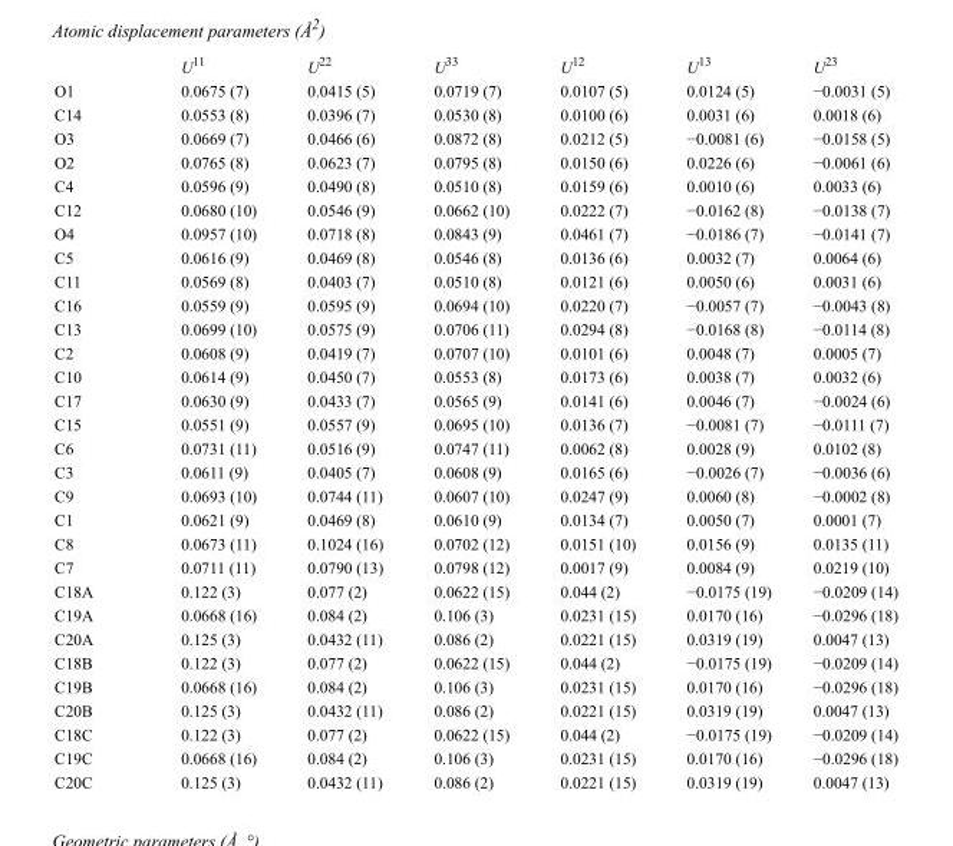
<table><thead><tr><td></td><td>U<sup>11</sup></td><td>U<sup>22</sup></td><td>U<sup>33</sup></td><td>U<sup>12</sup></td><td>U<sup>13</sup></td><td>U<sup>23</sup></td></tr></thead><tbody><tr><td>O1</td><td>0.0675 (7)</td><td>0.0415 (5)</td><td>0.0719 (7)</td><td>0.0107 (5)</td><td>0.0124 (5)</td><td>−0.0031 (5)</td></tr><tr><td>C14</td><td>0.0553 (8)</td><td>0.0396 (7)</td><td>0.0530 (8)</td><td>0.0100 (6)</td><td>0.0031 (6)</td><td>0.0018 (6)</td></tr><tr><td>O3</td><td>0.0669 (7)</td><td>0.0466 (6)</td><td>0.0872 (8)</td><td>0.0212 (5)</td><td>−0.0081 (6)</td><td>−0.0158 (5)</td></tr><tr><td>O2</td><td>0.0765 (8)</td><td>0.0623 (7)</td><td>0.0795 (8)</td><td>0.0150 (6)</td><td>0.0226 (6)</td><td>−0.0061 (6)</td></tr><tr><td>C4</td><td>0.0596 (9)</td><td>0.0490 (8)</td><td>0.0510 (8)</td><td>0.0159 (6)</td><td>0.0010 (6)</td><td>0.0033 (6)</td></tr><tr><td>C12</td><td>0.0680 (10)</td><td>0.0546 (9)</td><td>0.0662 (10)</td><td>0.0222 (7)</td><td>−0.0162 (8)</td><td>−0.0138 (7)</td></tr><tr><td>O4</td><td>0.0957 (10)</td><td>0.0718 (8)</td><td>0.0843 (9)</td><td>0.0461 (7)</td><td>−0.0186 (7)</td><td>−0.0141 (7)</td></tr><tr><td>C5</td><td>0.0616 (9)</td><td>0.0469 (8)</td><td>0.0546 (8)</td><td>0.0136 (6)</td><td>0.0032 (7)</td><td>0.0064 (6)</td></tr><tr><td>C11</td><td>0.0569 (8)</td><td>0.0403 (7)</td><td>0.0510 (8)</td><td>0.0121 (6)</td><td>0.0050 (6)</td><td>0.0031 (6)</td></tr><tr><td>C16</td><td>0.0559 (9)</td><td>0.0595 (9)</td><td>0.0694 (10)</td><td>0.0220 (7)</td><td>−0.0057 (7)</td><td>−0.0043 (8)</td></tr><tr><td>C13</td><td>0.0699 (10)</td><td>0.0575 (9)</td><td>0.0706 (11)</td><td>0.0294 (8)</td><td>−0.0168 (8)</td><td>−0.0114 (8)</td></tr><tr><td>C2</td><td>0.0608 (9)</td><td>0.0419 (7)</td><td>0.0707 (10)</td><td>0.0101 (6)</td><td>0.0048 (7)</td><td>0.0005 (7)</td></tr><tr><td>C10</td><td>0.0614 (9)</td><td>0.0450 (7)</td><td>0.0553 (8)</td><td>0.0173 (6)</td><td>0.0038 (7)</td><td>0.0032 (6)</td></tr><tr><td>C17</td><td>0.0630 (9)</td><td>0.0433 (7)</td><td>0.0565 (9)</td><td>0.0141 (6)</td><td>0.0046 (7)</td><td>−0.0024 (6)</td></tr><tr><td>C15</td><td>0.0551 (9)</td><td>0.0557 (9)</td><td>0.0695 (10)</td><td>0.0136 (7)</td><td>−0.0081 (7)</td><td>−0.0111 (7)</td></tr><tr><td>C6</td><td>0.0731 (11)</td><td>0.0516 (9)</td><td>0.0747 (11)</td><td>0.0062 (8)</td><td>0.0028 (9)</td><td>0.0102 (8)</td></tr><tr><td>C3</td><td>0.0611 (9)</td><td>0.0405 (7)</td><td>0.0608 (9)</td><td>0.0165 (6)</td><td>−0.0026 (7)</td><td>−0.0036 (6)</td></tr><tr><td>C9</td><td>0.0693 (10)</td><td>0.0744 (11)</td><td>0.0607 (10)</td><td>0.0247 (9)</td><td>0.0060 (8)</td><td>−0.0002 (8)</td></tr><tr><td>C1</td><td>0.0621 (9)</td><td>0.0469 (8)</td><td>0.0610 (9)</td><td>0.0134 (7)</td><td>0.0050 (7)</td><td>0.0001 (7)</td></tr><tr><td>C8</td><td>0.0673 (11)</td><td>0.1024 (16)</td><td>0.0702 (12)</td><td>0.0151 (10)</td><td>0.0156 (9)</td><td>0.0135 (11)</td></tr><tr><td>C7</td><td>0.0711 (11)</td><td>0.0790 (13)</td><td>0.0798 (12)</td><td>0.0017 (9)</td><td>0.0084 (9)</td><td>0.0219 (10)</td></tr><tr><td>C18A</td><td>0.122 (3)</td><td>0.077 (2)</td><td>0.0622 (15)</td><td>0.044 (2)</td><td>−0.0175 (19)</td><td>−0.0209 (14)</td></tr><tr><td>C19A</td><td>0.0668 (16)</td><td>0.084 (2)</td><td>0.106 (3)</td><td>0.0231 (15)</td><td>0.0170 (16)</td><td>−0.0296 (18)</td></tr><tr><td>C20A</td><td>0.125 (3)</td><td>0.0432 (11)</td><td>0.086 (2)</td><td>0.0221 (15)</td><td>0.0319 (19)</td><td>0.0047 (13)</td></tr><tr><td>C18B</td><td>0.122 (3)</td><td>0.077 (2)</td><td>0.0622 (15)</td><td>0.044 (2)</td><td>−0.0175 (19)</td><td>−0.0209 (14)</td></tr><tr><td>C19B</td><td>0.0668 (16)</td><td>0.084 (2)</td><td>0.106 (3)</td><td>0.0231 (15)</td><td>0.0170 (16)</td><td>−0.0296 (18)</td></tr><tr><td>C20B</td><td>0.125 (3)</td><td>0.0432 (11)</td><td>0.086 (2)</td><td>0.0221 (15)</td><td>0.0319 (19)</td><td>0.0047 (13)</td></tr><tr><td>C18C</td><td>0.122 (3)</td><td>0.077 (2)</td><td>0.0622 (15)</td><td>0.044 (2)</td><td>−0.0175 (19)</td><td>−0.0209 (14)</td></tr><tr><td>C19C</td><td>0.0668 (16)</td><td>0.084 (2)</td><td>0.106 (3)</td><td>0.0231 (15)</td><td>0.0170 (16)</td><td>−0.0296 (18)</td></tr><tr><td>C20C</td><td>0.125 (3)</td><td>0.0432 (11)</td><td>0.086 (2)</td><td>0.0221 (15)</td><td>0.0319 (19)</td><td>0.0047 (13)</td></tr></tbody></table>